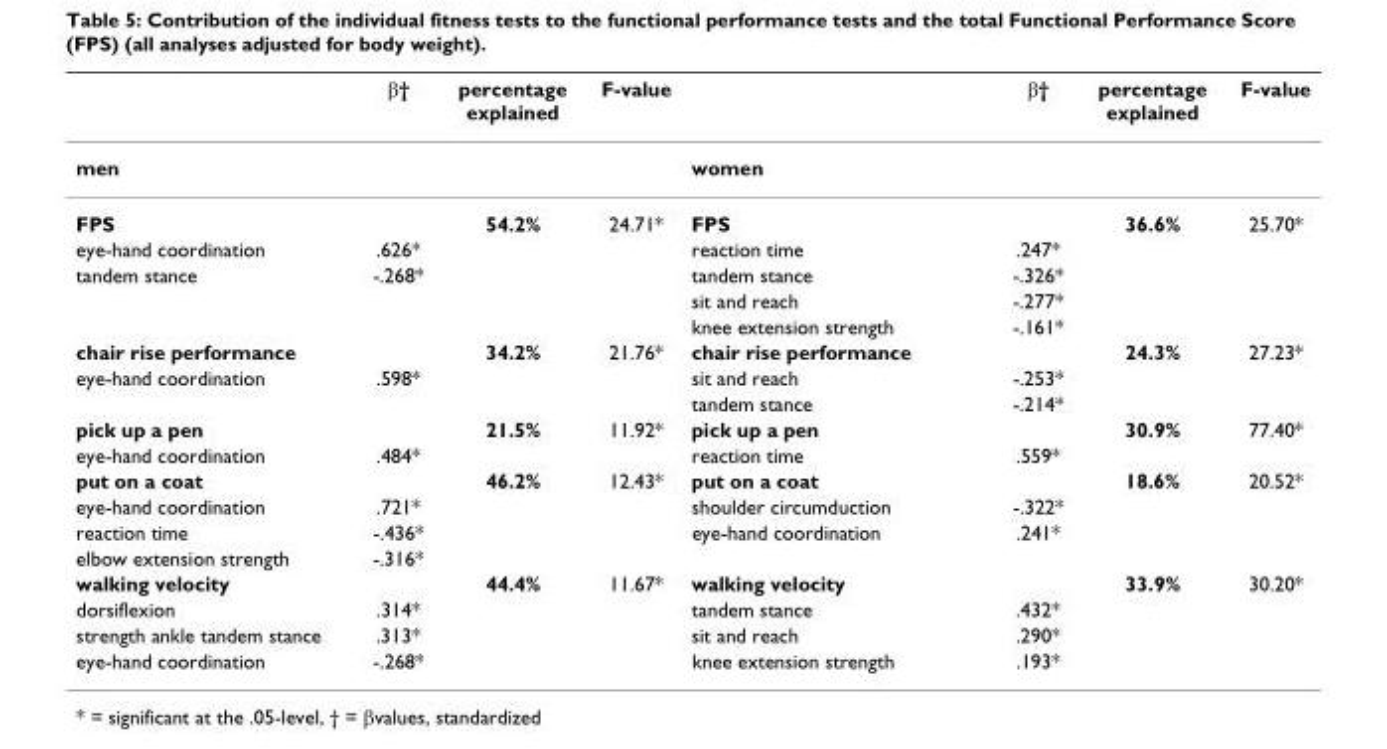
<table><thead><tr><td></td><td>β†</td><td>percentage explained</td><td>F-value</td><td></td><td>β†</td><td>percentage explained</td><td>F-value</td></tr></thead><tbody><tr><td>men</td><td></td><td></td><td></td><td>women</td><td></td><td></td><td></td></tr><tr><td>FPS</td><td></td><td>54.2%</td><td>24.71*</td><td>FPS</td><td></td><td>36.6%</td><td>25.70*</td></tr><tr><td>eye-hand coordination</td><td>.626*</td><td></td><td></td><td>reaction time</td><td>.247*</td><td></td><td></td></tr><tr><td rowspan="3">tandem stance</td><td>-.268*</td><td></td><td></td><td>tandem stance</td><td>-.326*</td><td></td><td></td></tr><tr><td></td><td></td><td></td><td>sit and reach</td><td>-.277*</td><td></td><td></td></tr><tr><td></td><td></td><td></td><td>knee extension strength</td><td>-.161*</td><td></td><td></td></tr><tr><td>chair rise performance</td><td></td><td>34.2%</td><td>21.76*</td><td>chair rise performance</td><td></td><td>24.3%</td><td>27.23*</td></tr><tr><td rowspan="2">eye-hand coordination</td><td>.598*</td><td></td><td></td><td>sit and reach</td><td>-.253*</td><td></td><td></td></tr><tr><td></td><td></td><td></td><td>tandem stance</td><td>-.214*</td><td></td><td></td></tr><tr><td>pick up a pen</td><td></td><td>21.5%</td><td>11.92*</td><td>pick up a pen</td><td></td><td>30.9%</td><td>77.40*</td></tr><tr><td>eye-hand coordination</td><td>.484*</td><td></td><td></td><td>reaction time</td><td>.559*</td><td></td><td></td></tr><tr><td>put on a coat</td><td></td><td>46.2%</td><td>12.43*</td><td>put on a coat</td><td></td><td>18.6%</td><td>20.52*</td></tr><tr><td>eye-hand coordination</td><td>.721*</td><td></td><td></td><td>shoulder circumduction</td><td>-.322*</td><td></td><td></td></tr><tr><td>reaction time</td><td>-.436*</td><td></td><td></td><td>eye-hand coordination</td><td>.241*</td><td></td><td></td></tr><tr><td>elbow extension strength</td><td>-.316*</td><td></td><td></td><td></td><td></td><td></td><td></td></tr><tr><td>walking velocity</td><td></td><td>44.4%</td><td>11.67*</td><td>walking velocity</td><td></td><td>33.9%</td><td>30.20*</td></tr><tr><td>dorsiflexion</td><td>.314*</td><td></td><td></td><td>tandem stance</td><td>.432*</td><td></td><td></td></tr><tr><td>strength ankle tandem stance</td><td>.313*</td><td></td><td></td><td>sit and reach</td><td>.290*</td><td></td><td></td></tr><tr><td>eye-hand coordination</td><td>-.268*</td><td></td><td></td><td>knee extension strength</td><td>.193*</td><td></td><td></td></tr></tbody></table>